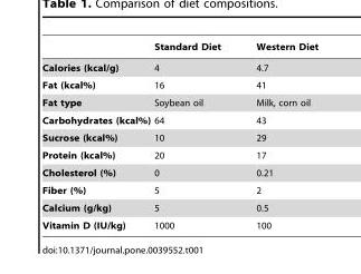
<table><thead><tr><td></td><td>Standard Diet</td><td>Western Diet</td></tr></thead><tbody><tr><td>Calories (kcal/g)</td><td>4</td><td>4.7</td></tr><tr><td>Fat (kcal%)</td><td>16</td><td>41</td></tr><tr><td>Fat type</td><td>Soybean oil</td><td>Milk, corn oil</td></tr><tr><td>Carbohydrates (kcal%)</td><td>64</td><td>43</td></tr><tr><td>Sucrose (kcal%)</td><td>10</td><td>29</td></tr><tr><td>Protein (kcal%)</td><td>20</td><td>17</td></tr><tr><td>Cholesterol (%)</td><td>0</td><td>0.21</td></tr><tr><td>Fiber (%)</td><td>5</td><td>2</td></tr><tr><td>Calcium (g/kg)</td><td>5</td><td>0.5</td></tr><tr><td>Vitamin D (IU/kg)</td><td>1000</td><td>100</td></tr></tbody></table>